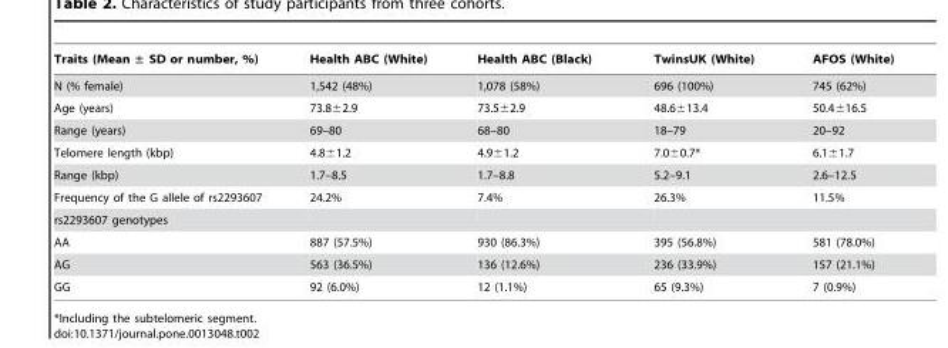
<table><thead><tr><td>Traits (Mean ± SD or number, %)</td><td>Health ABC (White)</td><td>Health ABC (Black)</td><td>TwinsUK (White)</td><td>AFOS (White)</td></tr></thead><tbody><tr><td>N (% female)</td><td>1,542 (48%)</td><td>1,078 (58%)</td><td>696 (100%)</td><td>745 (62%)</td></tr><tr><td>Age (years)</td><td>73.8±2.9</td><td>73.5±2.9</td><td>48.6±13.4</td><td>50.4±16.5</td></tr><tr><td>Range (years)</td><td>69–80</td><td>68–80</td><td>18–79</td><td>20–92</td></tr><tr><td>Telomere length (kbp)</td><td>4.8±1.2</td><td>4.9±1.2</td><td>7.0±0.7*</td><td>6.1±1.7</td></tr><tr><td>Range (kbp)</td><td>1.7–8.5</td><td>1.7–8.8</td><td>5.2–9.1</td><td>2.6–12.5</td></tr><tr><td>Frequency of the G allele of rs2293607</td><td>24.2%</td><td>7.4%</td><td>26.3%</td><td>11.5%</td></tr><tr><td colspan="5">rs2293607 genotypes</td></tr><tr><td>AA</td><td>887 (57.5%)</td><td>930 (86.3%)</td><td>395 (56.8%)</td><td>581 (78.0%)</td></tr><tr><td>AG</td><td>563 (36.5%)</td><td>136 (12.6%)</td><td>236 (33.9%)</td><td>157 (21.1%)</td></tr><tr><td>GG</td><td>92 (6.0%)</td><td>12 (1.1%)</td><td>65 (9.3%)</td><td>7 (0.9%)</td></tr></tbody></table>